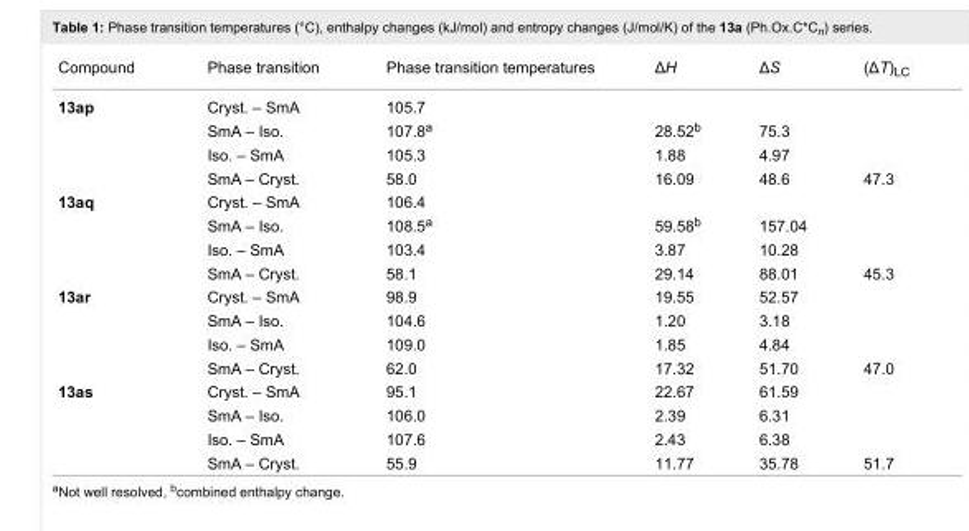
<table><tbody><tr><td>Compound</td><td>Phase transition</td><td>Phase transition temperatures</td><td>ΔH</td><td>ΔS</td><td>(ΔΤ)<sub>LC</sub></td></tr><tr><td rowspan="4">13ap</td><td>Cryst. – SmA</td><td>105.7</td><td></td><td></td><td></td></tr><tr><td>SmA – Iso.</td><td>107.8<sup>a</sup></td><td>28.52<sup>b</sup></td><td>75.3</td><td></td></tr><tr><td>Iso. – SmA</td><td>105.3</td><td>1.88</td><td>4.97</td><td></td></tr><tr><td>SmA – Cryst.</td><td>58.0</td><td>16.09</td><td>48.6</td><td>47.3</td></tr><tr><td rowspan="4">13aq</td><td>Cryst. – SmA</td><td>106.4</td><td></td><td></td><td></td></tr><tr><td>SmA – Iso.</td><td>108.5<sup>a</sup></td><td>59.58<sup>b</sup></td><td>157.04</td><td></td></tr><tr><td>Iso. – SmA</td><td>103.4</td><td>3.87</td><td>10.28</td><td></td></tr><tr><td>SmA – Cryst.</td><td>58.1</td><td>29.14</td><td>88.01</td><td>45.3</td></tr><tr><td rowspan="4">13ar</td><td>Cryst. – SmA</td><td>98.9</td><td>19.55</td><td>52.57</td><td></td></tr><tr><td>SmA – Iso.</td><td>104.6</td><td>1.20</td><td>3.18</td><td></td></tr><tr><td>Iso. – SmA</td><td>109.0</td><td>1.85</td><td>4.84</td><td></td></tr><tr><td>SmA – Cryst.</td><td>62.0</td><td>17.32</td><td>51.70</td><td>47.0</td></tr><tr><td rowspan="4">13as</td><td>Cryst. – SmA</td><td>95.1</td><td>22.67</td><td>61.59</td><td></td></tr><tr><td>SmA – Iso.</td><td>106.0</td><td>2.39</td><td>6.31</td><td></td></tr><tr><td>Iso. – SmA</td><td>107.6</td><td>2.43</td><td>6.38</td><td></td></tr><tr><td>SmA – Cryst.</td><td>55.9</td><td>11.77</td><td>35.78</td><td>51.7</td></tr></tbody></table>